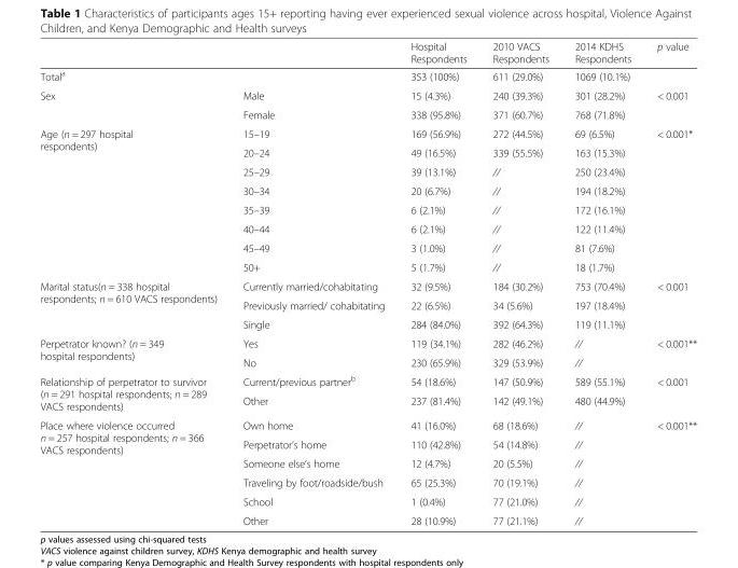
<table><thead><tr><td></td><td></td><td>Hospital Respondents</td><td>2010 VACS Respondents</td><td>2014 KDHS Respondents</td><td>p value</td></tr></thead><tbody><tr><td>Total<sup>a</sup></td><td></td><td>353 (100%)</td><td>611 (29.0%)</td><td>1069 (10.1%)</td><td></td></tr><tr><td rowspan="2">Sex</td><td>Male</td><td>15 (4.3%)</td><td>240 (39.3%)</td><td>301 (28.2%)</td><td rowspan="2">&lt; 0.001</td></tr><tr><td>Female</td><td>338 (95.8%)</td><td>371 (60.7%)</td><td>768 (71.8%)</td></tr><tr><td rowspan="8">Age (n = 297 hospital respondents)</td><td>15–19</td><td>169 (56.9%)</td><td>272 (44.5%)</td><td>69 (6.5%)</td><td rowspan="8">&lt; 0.001*</td></tr><tr><td>20–24</td><td>49 (16.5%)</td><td>339 (55.5%)</td><td>163 (15.3%)</td></tr><tr><td>25–29</td><td>39 (13.1%)</td><td>//</td><td>250 (23.4%)</td></tr><tr><td>30–34</td><td>20 (6.7%)</td><td>//</td><td>194 (18.2%)</td></tr><tr><td>35–39</td><td>6 (2.1%)</td><td>//</td><td>172 (16.1%)</td></tr><tr><td>40–44</td><td>6 (2.1%)</td><td>//</td><td>122 (11.4%)</td></tr><tr><td>45–49</td><td>3 (1.0%)</td><td>//</td><td>81 (7.6%)</td></tr><tr><td>50+</td><td>5 (1.7%)</td><td>//</td><td>18 (1.7%)</td></tr><tr><td rowspan="3">Marital status(n = 338 hospital respondents; n = 610 VACS respondents)</td><td>Currently married/cohabitating</td><td>32 (9.5%)</td><td>184 (30.2%)</td><td>753 (70.4%)</td><td rowspan="3">&lt; 0.001</td></tr><tr><td>Previously married/ cohabitating</td><td>22 (6.5%)</td><td>34 (5.6%)</td><td>197 (18.4%)</td></tr><tr><td>Single</td><td>284 (84.0%)</td><td>392 (64.3%)</td><td>119 (11.1%)</td></tr><tr><td rowspan="2">Perpetrator known? (n = 349 hospital respondents)</td><td>Yes</td><td>119 (34.1%)</td><td>282 (46.2%)</td><td>//</td><td rowspan="2">&lt; 0.001**</td></tr><tr><td>No</td><td>230 (65.9%)</td><td>329 (53.9%)</td><td>//</td></tr><tr><td rowspan="2">Relationship of perpetrator to survivor (n = 291 hospital respondents; n = 289 VACS respondents)</td><td>Current/previous partner<sup>b</sup></td><td>54 (18.6%)</td><td>147 (50.9%)</td><td>589 (55.1%)</td><td rowspan="2">&lt; 0.001</td></tr><tr><td>Other</td><td>237 (81.4%)</td><td>142 (49.1%)</td><td>480 (44.9%)</td></tr><tr><td rowspan="6">Place where violence occurred n = 257 hospital respondents; n = 366 VACS respondents)</td><td>Own home</td><td>41 (16.0%)</td><td>68 (18.6%)</td><td>//</td><td rowspan="6">&lt; 0.001**</td></tr><tr><td>Perpetrator’s home</td><td>110 (42.8%)</td><td>54 (14.8%)</td><td>//</td></tr><tr><td>Someone else’s home</td><td>12 (4.7%)</td><td>20 (5.5%)</td><td>//</td></tr><tr><td>Traveling by foot/roadside/bush</td><td>65 (25.3%)</td><td>70 (19.1%)</td><td>//</td></tr><tr><td>School</td><td>1 (0.4%)</td><td>77 (21.0%)</td><td>//</td></tr><tr><td>Other</td><td>28 (10.9%)</td><td>77 (21.1%)</td><td>//</td></tr></tbody></table>